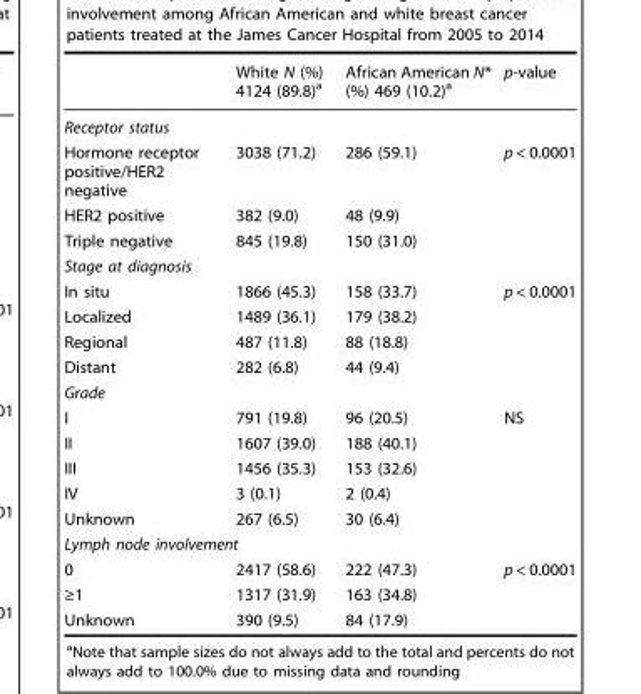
<table><thead><tr><td></td><td>White N (%) 4124 (89.8)<sup>a</sup></td><td>African American N* (%) 469 (10.2)<sup>a</sup></td><td>p-value</td></tr></thead><tbody><tr><td colspan="4">Receptor status</td></tr><tr><td>Hormone receptor positive/HER2 negative</td><td>3038 (71.2)</td><td>286 (59.1)</td><td rowspan="3">p &lt; 0.0001</td></tr><tr><td>HER2 positive</td><td>382 (9.0)</td><td>48 (9.9)</td></tr><tr><td>Triple negative</td><td>845 (19.8)</td><td>150 (31.0)</td></tr><tr><td colspan="4">Stage at diagnosis</td></tr><tr><td>In situ</td><td>1866 (45.3)</td><td>158 (33.7)</td><td rowspan="4">p &lt; 0.0001</td></tr><tr><td>Localized</td><td>1489 (36.1)</td><td>179 (38.2)</td></tr><tr><td>Regional</td><td>487 (11.8)</td><td>88 (18.8)</td></tr><tr><td>Distant</td><td>282 (6.8)</td><td>44 (9.4)</td></tr><tr><td colspan="4">Grade</td></tr><tr><td>I</td><td>791 (19.8)</td><td>96 (20.5)</td><td rowspan="5">NS</td></tr><tr><td>II</td><td>1607 (39.0)</td><td>188 (40.1)</td></tr><tr><td>III</td><td>1456 (35.3)</td><td>153 (32.6)</td></tr><tr><td>IV</td><td>3 (0.1)</td><td>2 (0.4)</td></tr><tr><td>Unknown</td><td>267 (6.5)</td><td>30 (6.4)</td></tr><tr><td colspan="4">Lymph node involvement</td></tr><tr><td>0</td><td>2417 (58.6)</td><td>222 (47.3)</td><td rowspan="3">p &lt; 0.0001</td></tr><tr><td>≥1</td><td>1317 (31.9)</td><td>163 (34.8)</td></tr><tr><td>Unknown</td><td>390 (9.5)</td><td>84 (17.9)</td></tr></tbody></table>